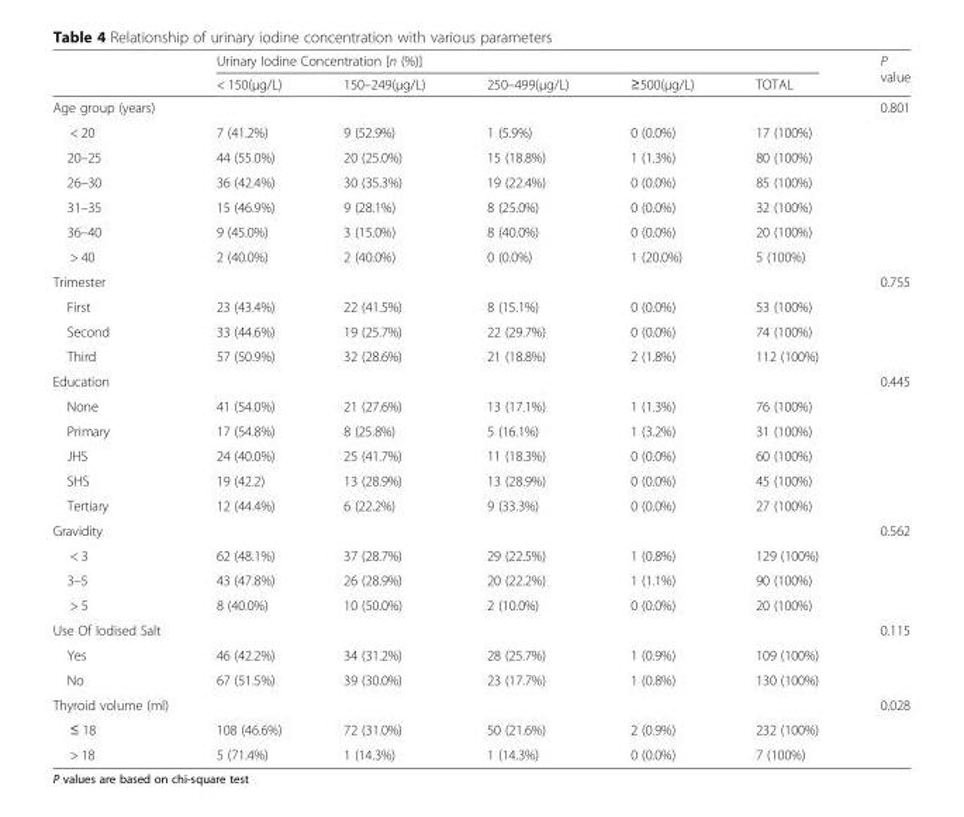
<table><thead><tr><td rowspan="2"></td><td colspan="5">Urinary Iodine Concentration [n (%)]</td><td rowspan="2">P value</td></tr><tr><td>&lt; 150(μg/L)</td><td>150–249(μg/L)</td><td>250–499(μg/L)</td><td>≥500(μg/L)</td><td>TOTAL</td></tr></thead><tbody><tr><td>Age group (years)</td><td></td><td></td><td></td><td></td><td></td><td>0.801</td></tr><tr><td>&lt; 20</td><td>7 (41.2%)</td><td>9 (52.9%)</td><td>1 (5.9%)</td><td>0 (0.0%)</td><td>17 (100%)</td><td></td></tr><tr><td>20–25</td><td>44 (55.0%)</td><td>20 (25.0%)</td><td>15 (18.8%)</td><td>1 (1.3%)</td><td>80 (100%)</td><td></td></tr><tr><td>26–30</td><td>36 (42.4%)</td><td>30 (35.3%)</td><td>19 (22.4%)</td><td>0 (0.0%)</td><td>85 (100%)</td><td></td></tr><tr><td>31–35</td><td>15 (46.9%)</td><td>9 (28.1%)</td><td>8 (25.0%)</td><td>0 (0.0%)</td><td>32 (100%)</td><td></td></tr><tr><td>36–40</td><td>9 (45.0%)</td><td>3 (15.0%)</td><td>8 (40.0%)</td><td>0 (0.0%)</td><td>20 (100%)</td><td></td></tr><tr><td>&gt; 40</td><td>2 (40.0%)</td><td>2 (40.0%)</td><td>0 (0.0%)</td><td>1 (20.0%)</td><td>5 (100%)</td><td></td></tr><tr><td>Trimester</td><td></td><td></td><td></td><td></td><td></td><td>0.755</td></tr><tr><td>First</td><td>23 (43.4%)</td><td>22 (41.5%)</td><td>8 (15.1%)</td><td>0 (0.0%)</td><td>53 (100%)</td><td></td></tr><tr><td>Second</td><td>33 (44.6%)</td><td>19 (25.7%)</td><td>22 (29.7%)</td><td>0 (0.0%)</td><td>74 (100%)</td><td></td></tr><tr><td>Third</td><td>57 (50.9%)</td><td>32 (28.6%)</td><td>21 (18.8%)</td><td>2 (1.8%)</td><td>112 (100%)</td><td></td></tr><tr><td>Education</td><td></td><td></td><td></td><td></td><td></td><td>0.445</td></tr><tr><td>None</td><td>41 (54.0%)</td><td>21 (27.6%)</td><td>13 (17.1%)</td><td>1 (1.3%)</td><td>76 (100%)</td><td></td></tr><tr><td>Primary</td><td>17 (54.8%)</td><td>8 (25.8%)</td><td>5 (16.1%)</td><td>1 (3.2%)</td><td>31 (100%)</td><td></td></tr><tr><td>JHS</td><td>24 (40.0%)</td><td>25 (41.7%)</td><td>11 (18.3%)</td><td>0 (0.0%)</td><td>60 (100%)</td><td></td></tr><tr><td>SHS</td><td>19 (42.2)</td><td>13 (28.9%)</td><td>13 (28.9%)</td><td>0 (0.0%)</td><td>45 (100%)</td><td></td></tr><tr><td>Tertiary</td><td>12 (44.4%)</td><td>6 (22.2%)</td><td>9 (33.3%)</td><td>0 (0.0%)</td><td>27 (100%)</td><td></td></tr><tr><td>Gravidity</td><td></td><td></td><td></td><td></td><td></td><td>0.562</td></tr><tr><td>&lt; 3</td><td>62 (48.1%)</td><td>37 (28.7%)</td><td>29 (22.5%)</td><td>1 (0.8%)</td><td>129 (100%)</td><td></td></tr><tr><td>3–5</td><td>43 (47.8%)</td><td>26 (28.9%)</td><td>20 (22.2%)</td><td>1 (1.1%)</td><td>90 (100%)</td><td></td></tr><tr><td>&gt; 5</td><td>8 (40.0%)</td><td>10 (50.0%)</td><td>2 (10.0%)</td><td>0 (0.0%)</td><td>20 (100%)</td><td></td></tr><tr><td colspan="2">Use Of Iodised Salt</td><td></td><td></td><td></td><td></td><td>0.115</td></tr><tr><td>Yes</td><td>46 (42.2%)</td><td>34 (31.2%)</td><td>28 (25.7%)</td><td>1 (0.9%)</td><td>109 (100%)</td><td></td></tr><tr><td>No</td><td>67 (51.5%)</td><td>39 (30.0%)</td><td>23 (17.7%)</td><td>1 (0.8%)</td><td>130 (100%)</td><td></td></tr><tr><td colspan="2">Thyroid volume (ml)</td><td></td><td></td><td></td><td></td><td>0.028</td></tr><tr><td>≤ 18</td><td>108 (46.6%)</td><td>72 (31.0%)</td><td>50 (21.6%)</td><td>2 (0.9%)</td><td>232 (100%)</td><td></td></tr><tr><td>&gt; 18</td><td>5 (71.4%)</td><td>1 (14.3%)</td><td>1 (14.3%)</td><td>0 (0.0%)</td><td>7 (100%)</td><td></td></tr></tbody></table>